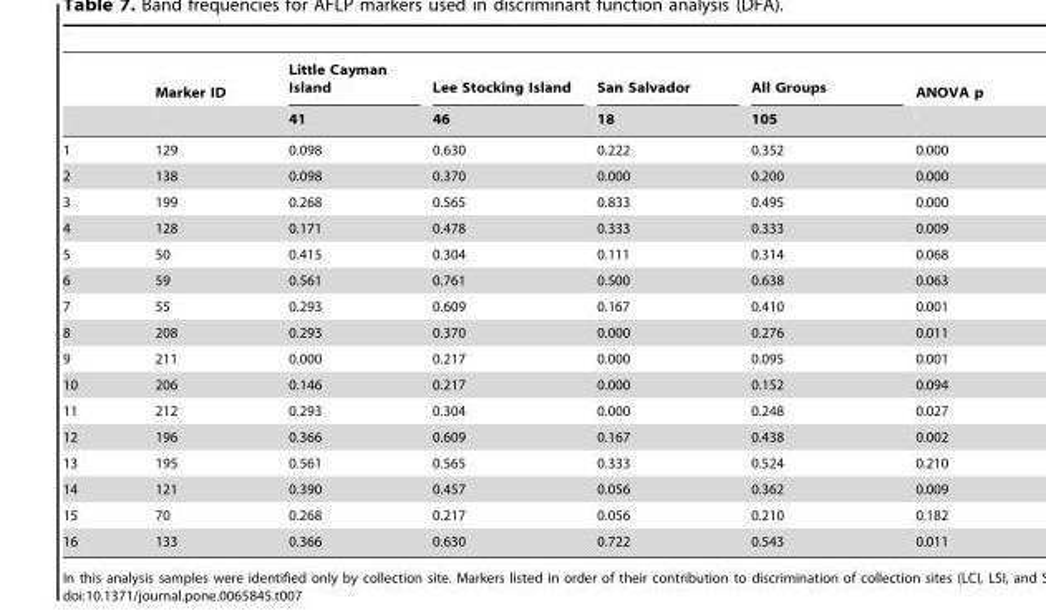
<table><thead><tr><td rowspan="2"></td><td rowspan="2">Marker ID</td><td rowspan="2">Little Cayman Island 41</td><td rowspan="2">Lee Stocking Island 46</td><td rowspan="2">San Salvador 18</td><td rowspan="2">All Groups 105</td><td rowspan="2">ANOVA p</td></tr><tr></tr></thead><tbody><tr><td>1</td><td>129</td><td>0.098</td><td>0.630</td><td>0.222</td><td>0.352</td><td>0.000</td></tr><tr><td>2</td><td>138</td><td>0.098</td><td>0.370</td><td>0.000</td><td>0.200</td><td>0.000</td></tr><tr><td>3</td><td>199</td><td>0.268</td><td>0.565</td><td>0.833</td><td>0.495</td><td>0.000</td></tr><tr><td>4</td><td>128</td><td>0.171</td><td>0.478</td><td>0.333</td><td>0.333</td><td>0.009</td></tr><tr><td>5</td><td>50</td><td>0.415</td><td>0.304</td><td>0.111</td><td>0.314</td><td>0.068</td></tr><tr><td>6</td><td>59</td><td>0.561</td><td>0.761</td><td>0.500</td><td>0.638</td><td>0.063</td></tr><tr><td>7</td><td>55</td><td>0.293</td><td>0.609</td><td>0.167</td><td>0.410</td><td>0.001</td></tr><tr><td>8</td><td>208</td><td>0.293</td><td>0.370</td><td>0.000</td><td>0.276</td><td>0.011</td></tr><tr><td>9</td><td>211</td><td>0.000</td><td>0.217</td><td>0.000</td><td>0.095</td><td>0.001</td></tr><tr><td>10</td><td>206</td><td>0.146</td><td>0.217</td><td>0.000</td><td>0.152</td><td>0.094</td></tr><tr><td>11</td><td>212</td><td>0.293</td><td>0.304</td><td>0.000</td><td>0.248</td><td>0.027</td></tr><tr><td>12</td><td>196</td><td>0.366</td><td>0.609</td><td>0.167</td><td>0.438</td><td>0.002</td></tr><tr><td>13</td><td>195</td><td>0.561</td><td>0.565</td><td>0.333</td><td>0.524</td><td>0.210</td></tr><tr><td>14</td><td>121</td><td>0.390</td><td>0.457</td><td>0.056</td><td>0.362</td><td>0.009</td></tr><tr><td>15</td><td>70</td><td>0.268</td><td>0.217</td><td>0.056</td><td>0.210</td><td>0.182</td></tr><tr><td>16</td><td>133</td><td>0.366</td><td>0.630</td><td>0.722</td><td>0.543</td><td>0.011</td></tr></tbody></table>